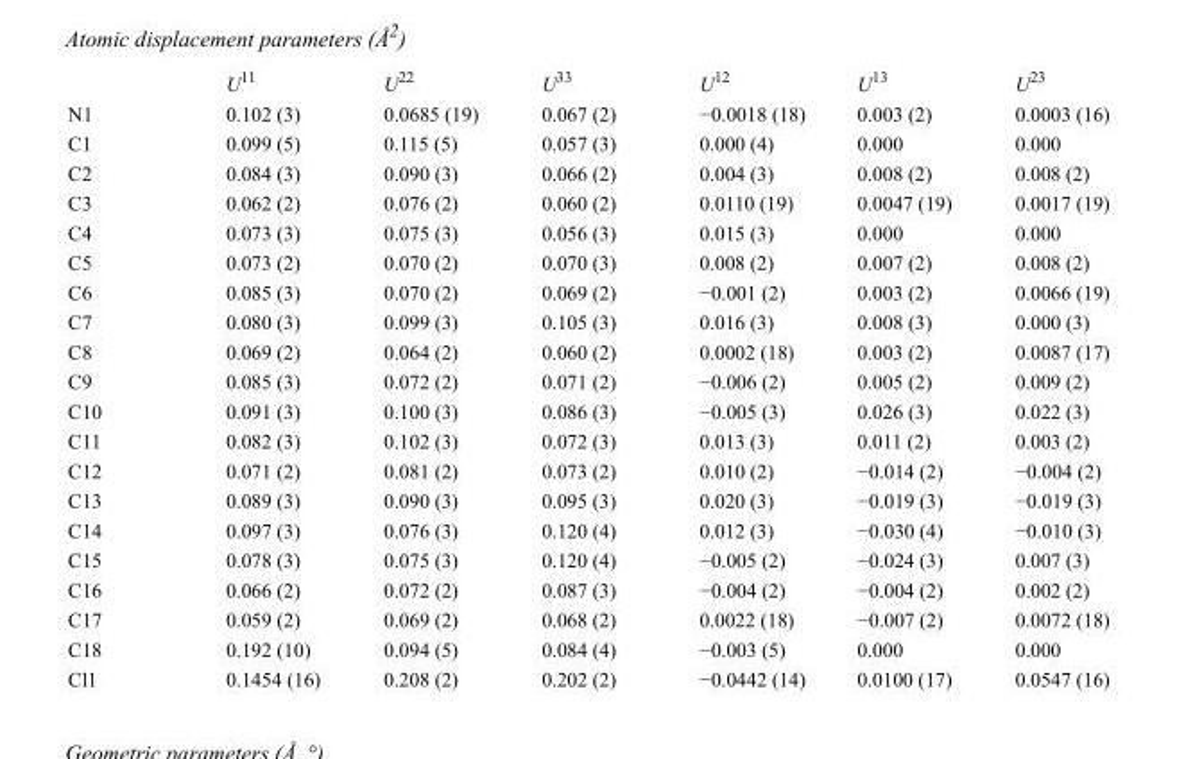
<table><thead><tr><td></td><td>U<sup>11</sup></td><td>U<sup>22</sup></td><td>U<sup>33</sup></td><td>U<sup>12</sup></td><td>U<sup>13</sup></td><td>U<sup>23</sup></td></tr></thead><tbody><tr><td>N1</td><td>0.102 (3)</td><td>0.0685 (19)</td><td>0.067 (2)</td><td>−0.0018 (18)</td><td>0.003 (2)</td><td>0.0003 (16)</td></tr><tr><td>C1</td><td>0.099 (5)</td><td>0.115 (5)</td><td>0.057 (3)</td><td>0.000 (4)</td><td>0.000</td><td>0.000</td></tr><tr><td>C2</td><td>0.084 (3)</td><td>0.090 (3)</td><td>0.066 (2)</td><td>0.004 (3)</td><td>0.008 (2)</td><td>0.008 (2)</td></tr><tr><td>C3</td><td>0.062 (2)</td><td>0.076 (2)</td><td>0.060 (2)</td><td>0.0110 (19)</td><td>0.0047 (19)</td><td>0.0017 (19)</td></tr><tr><td>C4</td><td>0.073 (3)</td><td>0.075 (3)</td><td>0.056 (3)</td><td>0.015 (3)</td><td>0.000</td><td>0.000</td></tr><tr><td>C5</td><td>0.073 (2)</td><td>0.070 (2)</td><td>0.070 (3)</td><td>0.008 (2)</td><td>0.007 (2)</td><td>0.008 (2)</td></tr><tr><td>C6</td><td>0.085 (3)</td><td>0.070 (2)</td><td>0.069 (2)</td><td>−0.001 (2)</td><td>0.003 (2)</td><td>0.0066 (19)</td></tr><tr><td>C7</td><td>0.080 (3)</td><td>0.099 (3)</td><td>0.105 (3)</td><td>0.016 (3)</td><td>0.008 (3)</td><td>0.000 (3)</td></tr><tr><td>C8</td><td>0.069 (2)</td><td>0.064 (2)</td><td>0.060 (2)</td><td>0.0002 (18)</td><td>0.003 (2)</td><td>0.0087 (17)</td></tr><tr><td>C9</td><td>0.085 (3)</td><td>0.072 (2)</td><td>0.071 (2)</td><td>−0.006 (2)</td><td>0.005 (2)</td><td>0.009 (2)</td></tr><tr><td>C10</td><td>0.091 (3)</td><td>0.100 (3)</td><td>0.086 (3)</td><td>−0.005 (3)</td><td>0.026 (3)</td><td>0.022 (3)</td></tr><tr><td>C11</td><td>0.082 (3)</td><td>0.102 (3)</td><td>0.072 (3)</td><td>0.013 (3)</td><td>0.011 (2)</td><td>0.003 (2)</td></tr><tr><td>C12</td><td>0.071 (2)</td><td>0.081 (2)</td><td>0.073 (2)</td><td>0.010 (2)</td><td>−0.014 (2)</td><td>−0.004 (2)</td></tr><tr><td>C13</td><td>0.089 (3)</td><td>0.090 (3)</td><td>0.095 (3)</td><td>0.020 (3)</td><td>−0.019 (3)</td><td>−0.019 (3)</td></tr><tr><td>C14</td><td>0.097 (3)</td><td>0.076 (3)</td><td>0.120 (4)</td><td>0.012 (3)</td><td>−0.030 (4)</td><td>−0.010 (3)</td></tr><tr><td>C15</td><td>0.078 (3)</td><td>0.075 (3)</td><td>0.120 (4)</td><td>−0.005 (2)</td><td>−0.024 (3)</td><td>0.007 (3)</td></tr><tr><td>C16</td><td>0.066 (2)</td><td>0.072 (2)</td><td>0.087 (3)</td><td>−0.004 (2)</td><td>−0.004 (2)</td><td>0.002 (2)</td></tr><tr><td>C17</td><td>0.059 (2)</td><td>0.069 (2)</td><td>0.068 (2)</td><td>0.0022 (18)</td><td>−0.007 (2)</td><td>0.0072 (18)</td></tr><tr><td>C18</td><td>0.192 (10)</td><td>0.094 (5)</td><td>0.084 (4)</td><td>−0.003 (5)</td><td>0.000</td><td>0.000</td></tr><tr><td>Cl1</td><td>0.1454 (16)</td><td>0.208 (2)</td><td>0.202 (2)</td><td>−0.0442 (14)</td><td>0.0100 (17)</td><td>0.0547 (16)</td></tr></tbody></table>